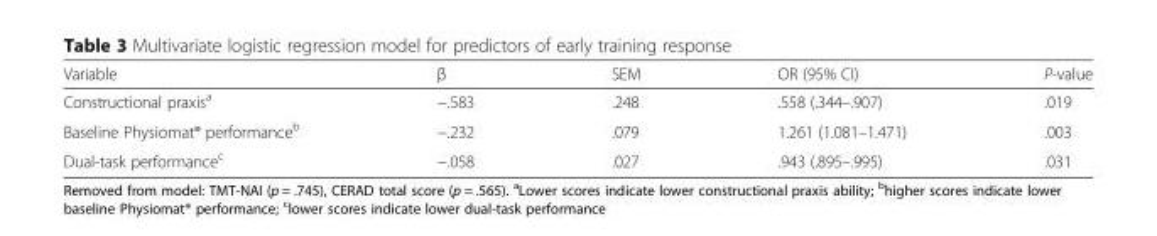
<table><thead><tr><td>Variable</td><td>β</td><td>SEM</td><td>OR (95% CI)</td><td>P-value</td></tr></thead><tbody><tr><td>Constructional praxis<sup>a</sup></td><td>−.583</td><td>.248</td><td>.558 (.344–.907)</td><td>.019</td></tr><tr><td>Baseline Physiomat® performance<sup>b</sup></td><td>−.232</td><td>.079</td><td>1.261 (1.081–1.471)</td><td>.003</td></tr><tr><td>Dual-task performance<sup>c</sup></td><td>−.058</td><td>.027</td><td>.943 (.895–.995)</td><td>.031</td></tr></tbody></table>